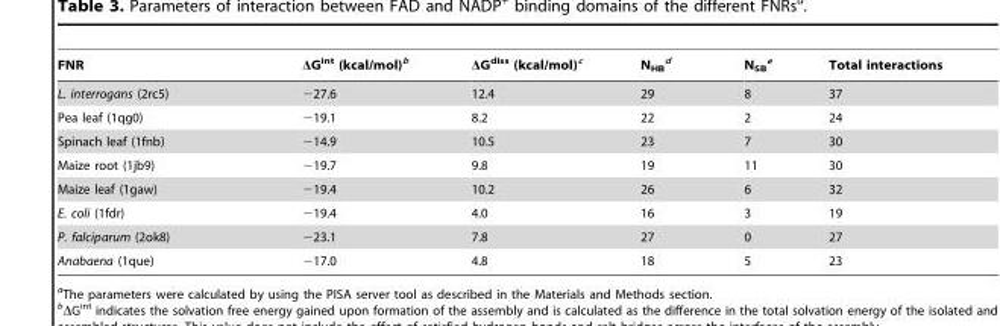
<table><thead><tr><td>FNR</td><td>ΔG<sup>int</sup> (kcal/mol)<sup>b</sup></td><td>ΔG<sup>diss</sup> (kcal/mol)<sup>c</sup></td><td>N<sub>HB</sub> d</td><td>N<sub>SB</sub> e</td><td>Total interactions</td></tr></thead><tbody><tr><td>L. interrogans (2rc5)</td><td>−27.6</td><td>12.4</td><td>29</td><td>8</td><td>37</td></tr><tr><td>Pea leaf (1qg0)</td><td>−19.1</td><td>8.2</td><td>22</td><td>2</td><td>24</td></tr><tr><td>Spinach leaf (1fnb)</td><td>−14.9</td><td>10.5</td><td>23</td><td>7</td><td>30</td></tr><tr><td>Maize root (1jb9)</td><td>−19.7</td><td>9.8</td><td>19</td><td>11</td><td>30</td></tr><tr><td>Maize leaf (1gaw)</td><td>−19.4</td><td>10.2</td><td>26</td><td>6</td><td>32</td></tr><tr><td>E. coli (1fdr)</td><td>−19.4</td><td>4.0</td><td>16</td><td>3</td><td>19</td></tr><tr><td>P. falciparum (2ok8)</td><td>−23.1</td><td>7.8</td><td>27</td><td>0</td><td>27</td></tr><tr><td>Anabaena (1que)</td><td>−17.0</td><td>4.8</td><td>18</td><td>5</td><td>23</td></tr></tbody></table>